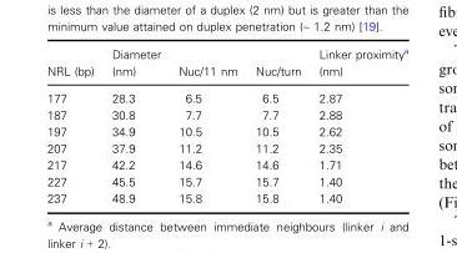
<table><thead><tr><td>NRL (bp)</td><td>Diameter (nm)</td><td>Nuc/11 nm</td><td>Nuc/turn</td><td>Linker proximity<sup>a</sup> (nm)</td></tr></thead><tbody><tr><td>177</td><td>28.3</td><td>6.5</td><td>6.5</td><td>2.87</td></tr><tr><td>187</td><td>30.8</td><td>7.7</td><td>7.7</td><td>2.88</td></tr><tr><td>197</td><td>34.9</td><td>10.5</td><td>10.5</td><td>2.62</td></tr><tr><td>207</td><td>37.9</td><td>11.2</td><td>11.2</td><td>2.35</td></tr><tr><td>217</td><td>42.2</td><td>14.6</td><td>14.6</td><td>1.71</td></tr><tr><td>227</td><td>45.5</td><td>15.7</td><td>15.7</td><td>1.40</td></tr><tr><td>237</td><td>48.9</td><td>15.8</td><td>15.8</td><td>1.40</td></tr></tbody></table>